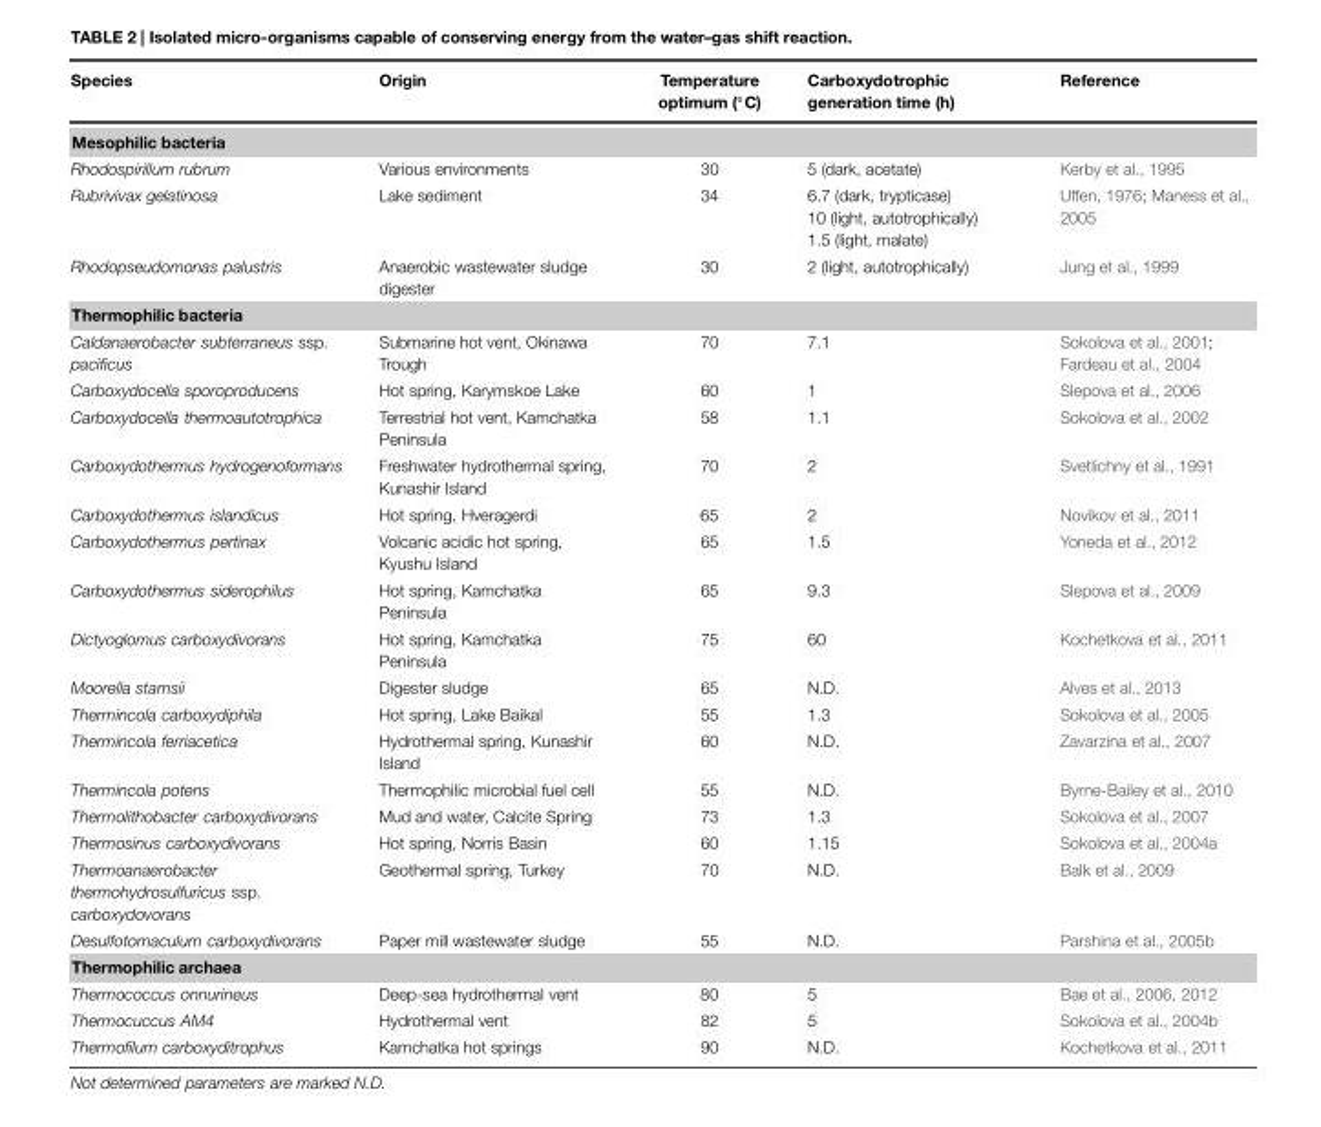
<table><thead><tr><td>Species</td><td>Origin</td><td>Temperature optimum (◦C)</td><td>Carboxydotrophic generation time (h)</td><td>Reference</td></tr></thead><tbody><tr><td colspan="5">Mesophilic bacteria</td></tr><tr><td>Rhodospirillum rubrum</td><td>Various environments</td><td>30</td><td>5 (dark, acetate)</td><td>Kerby et al., 1995</td></tr><tr><td>Rubrivivax gelatinosa</td><td>Lake sediment</td><td>34</td><td>6.7 (dark, trypticase) 10 (light, autotrophically) 1.5 (light, malate)</td><td>Uffen, 1976; Maness et al., 2005</td></tr><tr><td>Rhodopseudomonas palustris</td><td>Anaerobic wastewater sludge digester</td><td>30</td><td>2 (light, autotrophically)</td><td>Jung et al., 1999</td></tr><tr><td colspan="5">Thermophilic bacteria</td></tr><tr><td>Caldanaerobacter subterraneus ssp. pacificus</td><td>Submarine hot vent, Okinawa Trough</td><td>70</td><td>7.1</td><td>Sokolova et al., 2001; Fardeau et al., 2004</td></tr><tr><td>Carboxydocella sporoproducens</td><td>Hot spring, Karymskoe Lake</td><td>60</td><td>1</td><td>Slepova et al., 2006</td></tr><tr><td>Carboxydocella thermoautotrophica</td><td>Terrestrial hot vent, Kamchatka Peninsula</td><td>58</td><td>1.1</td><td>Sokolova et al., 2002</td></tr><tr><td>Carboxydothermus hydrogenoformans</td><td>Freshwater hydrothermal spring, Kunashir Island</td><td>70</td><td>2</td><td>Svetlichny et al., 1991</td></tr><tr><td>Carboxydothermus islandicus</td><td>Hot spring, Hveragerdi</td><td>65</td><td>2</td><td>Novikov et al., 2011</td></tr><tr><td>Carboxydothermus pertinax</td><td>Volcanic acidic hot spring, Kyushu Island</td><td>65</td><td>1.5</td><td>Yoneda et al., 2012</td></tr><tr><td>Carboxydothermus siderophilus</td><td>Hot spring, Kamchatka Peninsula</td><td>65</td><td>9.3</td><td>Slepova et al., 2009</td></tr><tr><td>Dictyoglomus carboxydivorans</td><td>Hot spring, Kamchatka Peninsula</td><td>75</td><td>60</td><td>Kochetkova et al., 2011</td></tr><tr><td>Moorella stamsii</td><td>Digester sludge</td><td>65</td><td>N.D.</td><td>Alves et al., 2013</td></tr><tr><td>Thermincola carboxydiphila</td><td>Hot spring, Lake Baikal</td><td>55</td><td>1.3</td><td>Sokolova et al., 2005</td></tr><tr><td>Thermincola ferriacetica</td><td>Hydrothermal spring, Kunashir Island</td><td>60</td><td>N.D.</td><td>Zavarzina et al., 2007</td></tr><tr><td>Thermincola potens</td><td>Thermophilic microbial fuel cell</td><td>55</td><td>N.D.</td><td>Byrne-Bailey et al., 2010</td></tr><tr><td>Thermolithobacter carboxydivorans</td><td>Mud and water, Calcite Spring</td><td>73</td><td>1.3</td><td>Sokolova et al., 2007</td></tr><tr><td>Thermosinus carboxydivorans</td><td>Hot spring, Norris Basin</td><td>60</td><td>1.15</td><td>Sokolova et al., 2004a</td></tr><tr><td>Thermoanaerobacter thermohydrosulfuricus ssp. carboxydovorans</td><td>Geothermal spring, Turkey</td><td>70</td><td>N.D.</td><td>Balk et al., 2009</td></tr><tr><td>Desulfotomaculum carboxydivorans</td><td>Paper mill wastewater sludge</td><td>55</td><td>N.D.</td><td>Parshina et al., 2005b</td></tr><tr><td colspan="5">Thermophilic archaea</td></tr><tr><td>Thermococcus onnurineus</td><td>Deep-sea hydrothermal vent</td><td>80</td><td>5</td><td>Bae et al., 2006, 2012</td></tr><tr><td>Thermocuccus AM4</td><td>Hydrothermal vent</td><td>82</td><td>5</td><td>Sokolova et al., 2004b</td></tr><tr><td>Thermofilum carboxyditrophus</td><td>Kamchatka hot springs</td><td>90</td><td>N.D.</td><td>Kochetkova et al., 2011</td></tr></tbody></table>